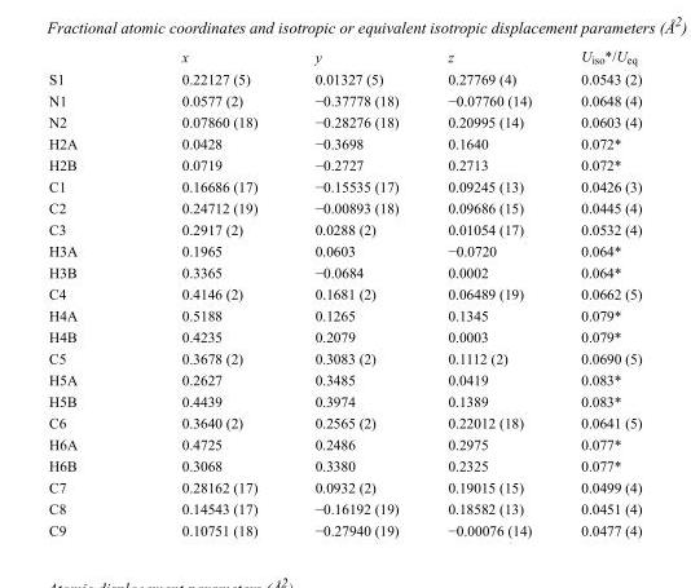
<table><thead><tr><td></td><td>x</td><td>y</td><td>z</td><td>U<sub>iso</sub>*/U<sub>eq</sub></td></tr></thead><tbody><tr><td>S1</td><td>0.22127 (5)</td><td>0.01327 (5)</td><td>0.27769 (4)</td><td>0.0543 (2)</td></tr><tr><td>N1</td><td>0.0577 (2)</td><td>−0.37778 (18)</td><td>−0.07760 (14)</td><td>0.0648 (4)</td></tr><tr><td>N2</td><td>0.07860 (18)</td><td>−0.28276 (18)</td><td>0.20995 (14)</td><td>0.0603 (4)</td></tr><tr><td>H2A</td><td>0.0428</td><td>−0.3698</td><td>0.1640</td><td>0.072*</td></tr><tr><td>H2B</td><td>0.0719</td><td>−0.2727</td><td>0.2713</td><td>0.072*</td></tr><tr><td>C1</td><td>0.16686 (17)</td><td>−0.15535 (17)</td><td>0.09245 (13)</td><td>0.0426 (3)</td></tr><tr><td>C2</td><td>0.24712 (19)</td><td>−0.00893 (18)</td><td>0.09686 (15)</td><td>0.0445 (4)</td></tr><tr><td>C3</td><td>0.2917 (2)</td><td>0.0288 (2)</td><td>0.01054 (17)</td><td>0.0532 (4)</td></tr><tr><td>H3A</td><td>0.1965</td><td>0.0603</td><td>−0.0720</td><td>0.064*</td></tr><tr><td>H3B</td><td>0.3365</td><td>−0.0684</td><td>0.0002</td><td>0.064*</td></tr><tr><td>C4</td><td>0.4146 (2)</td><td>0.1681 (2)</td><td>0.06489 (19)</td><td>0.0662 (5)</td></tr><tr><td>H4A</td><td>0.5188</td><td>0.1265</td><td>0.1345</td><td>0.079*</td></tr><tr><td>H4B</td><td>0.4235</td><td>0.2079</td><td>0.0003</td><td>0.079*</td></tr><tr><td>C5</td><td>0.3678 (2)</td><td>0.3083 (2)</td><td>0.1112 (2)</td><td>0.0690 (5)</td></tr><tr><td>H5A</td><td>0.2627</td><td>0.3485</td><td>0.0419</td><td>0.083*</td></tr><tr><td>H5B</td><td>0.4439</td><td>0.3974</td><td>0.1389</td><td>0.083*</td></tr><tr><td>C6</td><td>0.3640 (2)</td><td>0.2565 (2)</td><td>0.22012 (18)</td><td>0.0641 (5)</td></tr><tr><td>H6A</td><td>0.4725</td><td>0.2486</td><td>0.2975</td><td>0.077*</td></tr><tr><td>H6B</td><td>0.3068</td><td>0.3380</td><td>0.2325</td><td>0.077*</td></tr><tr><td>C7</td><td>0.28162 (17)</td><td>0.0932 (2)</td><td>0.19015 (15)</td><td>0.0499 (4)</td></tr><tr><td>C8</td><td>0.14543 (17)</td><td>−0.16192 (19)</td><td>0.18582 (13)</td><td>0.0451 (4)</td></tr><tr><td>C9</td><td>0.10751 (18)</td><td>−0.27940 (19)</td><td>−0.00076 (14)</td><td>0.0477 (4)</td></tr></tbody></table>